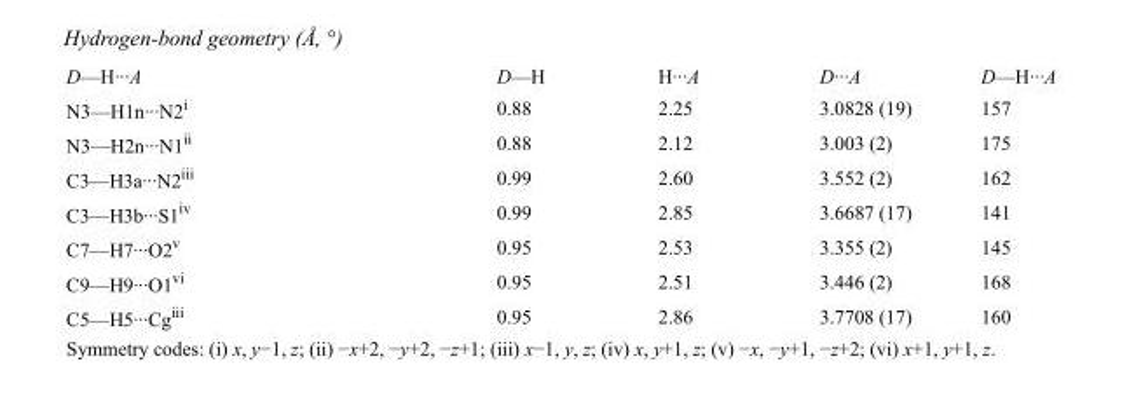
<table><tbody><tr><td>D—H···A</td><td>D—H</td><td>H···A</td><td>D···A</td><td>D—H···A</td></tr><tr><td>N3—H1n···N2<sup>i</sup></td><td>0.88</td><td>2.25</td><td>3.0828 (19)</td><td>157</td></tr><tr><td>N3—H2n···N1<sup>ii</sup></td><td>0.88</td><td>2.12</td><td>3.003 (2)</td><td>175</td></tr><tr><td>C3—H3a···N2<sup>iii</sup></td><td>0.99</td><td>2.60</td><td>3.552 (2)</td><td>162</td></tr><tr><td>C3—H3b···S1<sup>iv</sup></td><td>0.99</td><td>2.85</td><td>3.6687 (17)</td><td>141</td></tr><tr><td>C7—H7···O2<sup>v</sup></td><td>0.95</td><td>2.53</td><td>3.355 (2)</td><td>145</td></tr><tr><td>C9—H9···O1<sup>vi</sup></td><td>0.95</td><td>2.51</td><td>3.446 (2)</td><td>168</td></tr><tr><td>C5—H5···Cg<sup>iii</sup></td><td>0.95</td><td>2.86</td><td>3.7708 (17)</td><td>160</td></tr></tbody></table>